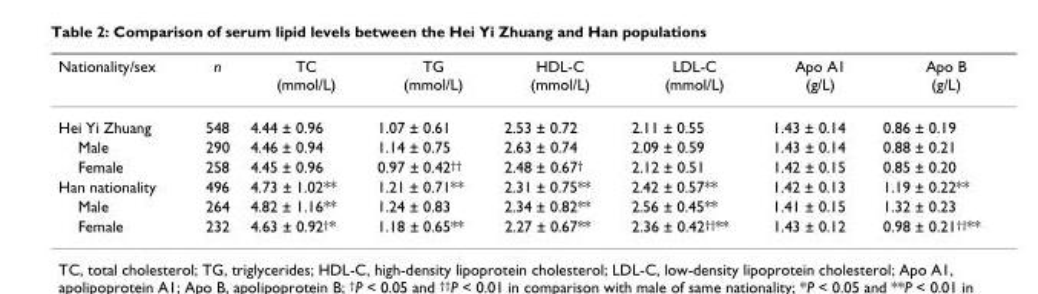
<table><thead><tr><td>Nationality/sex</td><td>n</td><td>TC (mmol/L)</td><td>TG (mmol/L)</td><td>HDL-C (mmol/L)</td><td>LDL-C (mmol/L)</td><td>Apo A1 (g/L)</td><td>Apo B (g/L)</td></tr></thead><tbody><tr><td>Hei Yi Zhuang</td><td>548</td><td>4.44 ± 0.96</td><td>1.07 ± 0.61</td><td>2.53 ± 0.72</td><td>2.11 ± 0.55</td><td>1.43 ± 0.14</td><td>0.86 ± 0.19</td></tr><tr><td>Male</td><td>290</td><td>4.46 ± 0.94</td><td>1.14 ± 0.75</td><td>2.63 ± 0.74</td><td>2.09 ± 0.59</td><td>1.43 ± 0.14</td><td>0.88 ± 0.21</td></tr><tr><td>Female</td><td>258</td><td>4.45 ± 0.96</td><td>0.97 ± 0.42<sup>††</sup></td><td>2.48 ± 0.67<sup>†</sup></td><td>2.12 ± 0.51</td><td>1.42 ± 0.15</td><td>0.85 ± 0.20</td></tr><tr><td>Han nationality</td><td>496</td><td>4.73 ± 1.02**</td><td>1.21 ± 0.71**</td><td>2.31 ± 0.75**</td><td>2.42 ± 0.57**</td><td>1.42 ± 0.13</td><td>1.19 ± 0.22**</td></tr><tr><td>Male</td><td>264</td><td>4.82 ± 1.16**</td><td>1.24 ± 0.83</td><td>2.34 ± 0.82**</td><td>2.56 ± 0.45**</td><td>1.41 ± 0.15</td><td>1.32 ± 0.23</td></tr><tr><td>Female</td><td>232</td><td>4.63 ± 0.92<sup>†</sup>*</td><td>1.18 ± 0.65**</td><td>2.27 ± 0.67**</td><td>2.36 ± 0.42<sup>††</sup>**</td><td>1.43 ± 0.12</td><td>0.98 ± 0.21<sup>††</sup>**</td></tr></tbody></table>